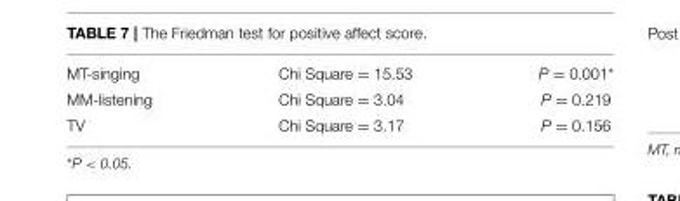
<table><tbody><tr><td>MT-singing</td><td>Chi Square = 15.53</td><td>P = 0.001*</td></tr><tr><td>MM-listening</td><td>Chi Square = 3.04</td><td>P = 0.219</td></tr><tr><td>TV</td><td>Chi Square = 3.17</td><td>P = 0.156</td></tr></tbody></table>